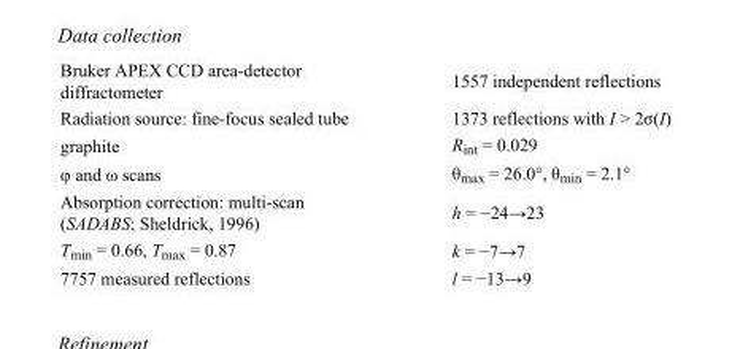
<table><tbody><tr><td>Bruker APEX CCD area-detector diffractometer</td><td>1557 independent reflections</td></tr><tr><td>Radiation source: fine-focus sealed tube</td><td>1373 reflections with I &gt; 2σ(I)</td></tr><tr><td>graphite</td><td>R<sub>int</sub> = 0.029</td></tr><tr><td>φ and ω scans</td><td>θ<sub>max</sub> = 26.0°, θ<sub>min</sub> = 2.1°</td></tr><tr><td>Absorption correction: multi-scan (SADABS; Sheldrick, 1996)</td><td>h = −24→23</td></tr><tr><td>T<sub>min</sub> = 0.66, T<sub>max</sub> = 0.87</td><td>k = −7→7</td></tr><tr><td>7757 measured reflections</td><td>l = −13→9</td></tr></tbody></table>